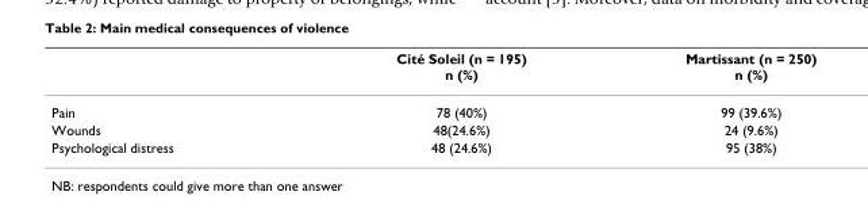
<table><thead><tr><td></td><td>Cité Soleil (n = 195) n (%)</td><td>Martissant (n = 250) n (%)</td></tr></thead><tbody><tr><td>Pain</td><td>78 (40%)</td><td>99 (39.6%)</td></tr><tr><td>Wounds</td><td>48(24.6%)</td><td>24 (9.6%)</td></tr><tr><td>Psychological distress</td><td>48 (24.6%)</td><td>95 (38%)</td></tr></tbody></table>